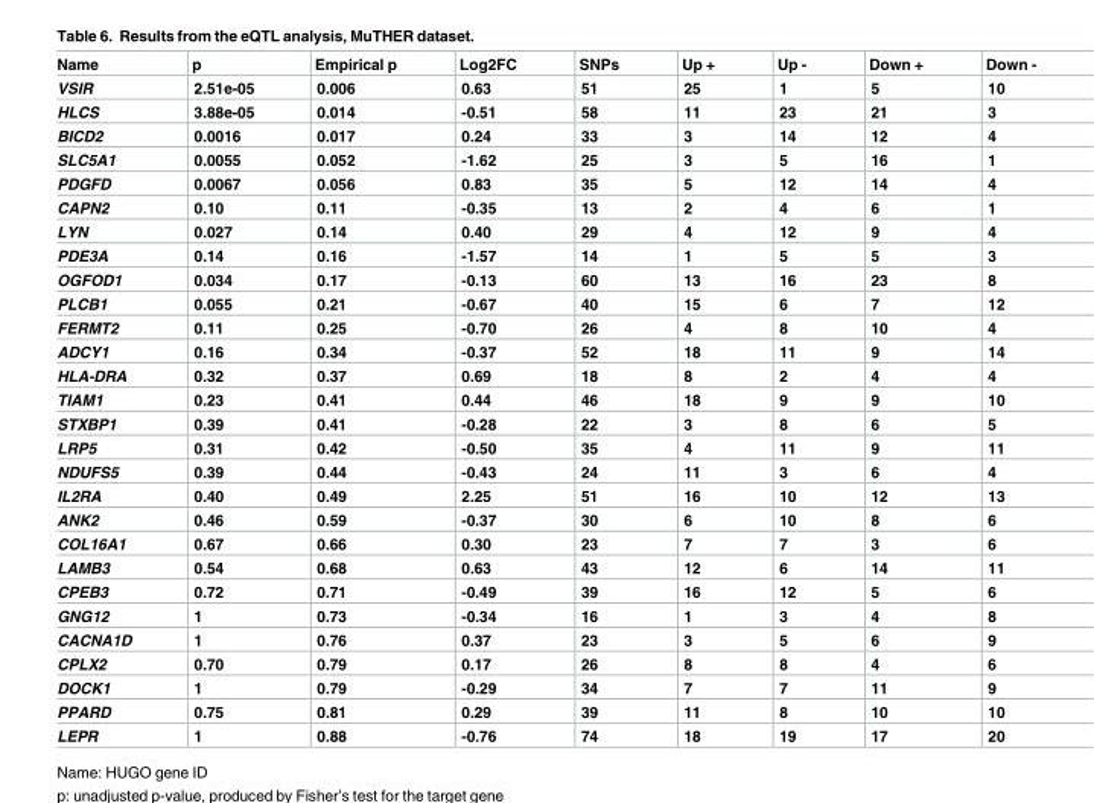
<table><thead><tr><td>Name</td><td>p</td><td>Empirical p</td><td>Log2FC</td><td>SNPs</td><td>Up +</td><td>Up -</td><td>Down +</td><td>Down -</td></tr></thead><tbody><tr><td>VSIR</td><td>2.51e-05</td><td>0.006</td><td>0.63</td><td>51</td><td>25</td><td>1</td><td>5</td><td>10</td></tr><tr><td>HLCS</td><td>3.88e-05</td><td>0.014</td><td>-0.51</td><td>58</td><td>11</td><td>23</td><td>21</td><td>3</td></tr><tr><td>BICD2</td><td>0.0016</td><td>0.017</td><td>0.24</td><td>33</td><td>3</td><td>14</td><td>12</td><td>4</td></tr><tr><td>SLC5A1</td><td>0.0055</td><td>0.052</td><td>-1.62</td><td>25</td><td>3</td><td>5</td><td>16</td><td>1</td></tr><tr><td>PDGFD</td><td>0.0067</td><td>0.056</td><td>0.83</td><td>35</td><td>5</td><td>12</td><td>14</td><td>4</td></tr><tr><td>CAPN2</td><td>0.10</td><td>0.11</td><td>-0.35</td><td>13</td><td>2</td><td>4</td><td>6</td><td>1</td></tr><tr><td>LYN</td><td>0.027</td><td>0.14</td><td>0.40</td><td>29</td><td>4</td><td>12</td><td>9</td><td>4</td></tr><tr><td>PDE3A</td><td>0.14</td><td>0.16</td><td>-1.57</td><td>14</td><td>1</td><td>5</td><td>5</td><td>3</td></tr><tr><td>OGFOD1</td><td>0.034</td><td>0.17</td><td>-0.13</td><td>60</td><td>13</td><td>16</td><td>23</td><td>8</td></tr><tr><td>PLCB1</td><td>0.055</td><td>0.21</td><td>-0.67</td><td>40</td><td>15</td><td>6</td><td>7</td><td>12</td></tr><tr><td>FERMT2</td><td>0.11</td><td>0.25</td><td>-0.70</td><td>26</td><td>4</td><td>8</td><td>10</td><td>4</td></tr><tr><td>ADCY1</td><td>0.16</td><td>0.34</td><td>-0.37</td><td>52</td><td>18</td><td>11</td><td>9</td><td>14</td></tr><tr><td>HLA-DRA</td><td>0.32</td><td>0.37</td><td>0.69</td><td>18</td><td>8</td><td>2</td><td>4</td><td>4</td></tr><tr><td>TIAM1</td><td>0.23</td><td>0.41</td><td>0.44</td><td>46</td><td>18</td><td>9</td><td>9</td><td>10</td></tr><tr><td>STXBP1</td><td>0.39</td><td>0.41</td><td>-0.28</td><td>22</td><td>3</td><td>8</td><td>6</td><td>5</td></tr><tr><td>LRP5</td><td>0.31</td><td>0.42</td><td>-0.50</td><td>35</td><td>4</td><td>11</td><td>9</td><td>11</td></tr><tr><td>NDUFS5</td><td>0.39</td><td>0.44</td><td>-0.43</td><td>24</td><td>11</td><td>3</td><td>6</td><td>4</td></tr><tr><td>IL2RA</td><td>0.40</td><td>0.49</td><td>2.25</td><td>51</td><td>16</td><td>10</td><td>12</td><td>13</td></tr><tr><td>ANK2</td><td>0.46</td><td>0.59</td><td>-0.37</td><td>30</td><td>6</td><td>10</td><td>8</td><td>6</td></tr><tr><td>COL16A1</td><td>0.67</td><td>0.66</td><td>0.30</td><td>23</td><td>7</td><td>7</td><td>3</td><td>6</td></tr><tr><td>LAMB3</td><td>0.54</td><td>0.68</td><td>0.63</td><td>43</td><td>12</td><td>6</td><td>14</td><td>11</td></tr><tr><td>CPEB3</td><td>0.72</td><td>0.71</td><td>-0.49</td><td>39</td><td>16</td><td>12</td><td>5</td><td>6</td></tr><tr><td>GNG12</td><td>1</td><td>0.73</td><td>-0.34</td><td>16</td><td>1</td><td>3</td><td>4</td><td>8</td></tr><tr><td>CACNA1D</td><td>1</td><td>0.76</td><td>0.37</td><td>23</td><td>3</td><td>5</td><td>6</td><td>9</td></tr><tr><td>CPLX2</td><td>0.70</td><td>0.79</td><td>0.17</td><td>26</td><td>8</td><td>8</td><td>4</td><td>6</td></tr><tr><td>DOCK1</td><td>1</td><td>0.79</td><td>-0.29</td><td>34</td><td>7</td><td>7</td><td>11</td><td>9</td></tr><tr><td>PPARD</td><td>0.75</td><td>0.81</td><td>0.29</td><td>39</td><td>11</td><td>8</td><td>10</td><td>10</td></tr><tr><td>LEPR</td><td>1</td><td>0.88</td><td>-0.76</td><td>74</td><td>18</td><td>19</td><td>17</td><td>20</td></tr></tbody></table>